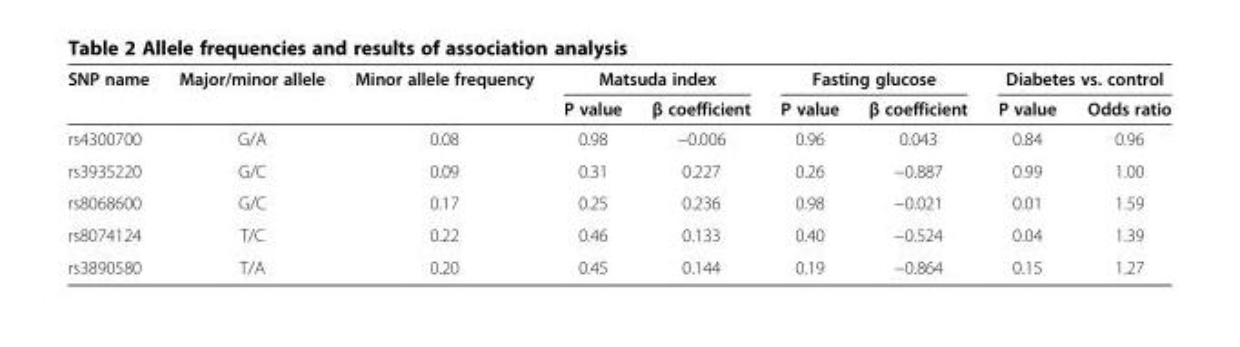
<table><thead><tr><td rowspan="2">SNP name</td><td rowspan="2">Major/minor allele</td><td rowspan="2">Minor allele frequency</td><td colspan="2">Matsuda index</td><td colspan="2">Fasting glucose</td><td colspan="2">Diabetes vs. control</td></tr><tr><td>P value</td><td>β coefficient</td><td>P value</td><td>β coefficient</td><td>P value</td><td>Odds ratio</td></tr></thead><tbody><tr><td>rs4300700</td><td>G/A</td><td>0.08</td><td>0.98</td><td>−0.006</td><td>0.96</td><td>0.043</td><td>0.84</td><td>0.96</td></tr><tr><td>rs3935220</td><td>G/C</td><td>0.09</td><td>0.31</td><td>0.227</td><td>0.26</td><td>−0.887</td><td>0.99</td><td>1.00</td></tr><tr><td>rs8068600</td><td>G/C</td><td>0.17</td><td>0.25</td><td>0.236</td><td>0.98</td><td>−0.021</td><td>0.01</td><td>1.59</td></tr><tr><td>rs8074124</td><td>T/C</td><td>0.22</td><td>0.46</td><td>0.133</td><td>0.40</td><td>−0.524</td><td>0.04</td><td>1.39</td></tr><tr><td>rs3890580</td><td>T/A</td><td>0.20</td><td>0.45</td><td>0.144</td><td>0.19</td><td>−0.864</td><td>0.15</td><td>1.27</td></tr></tbody></table>